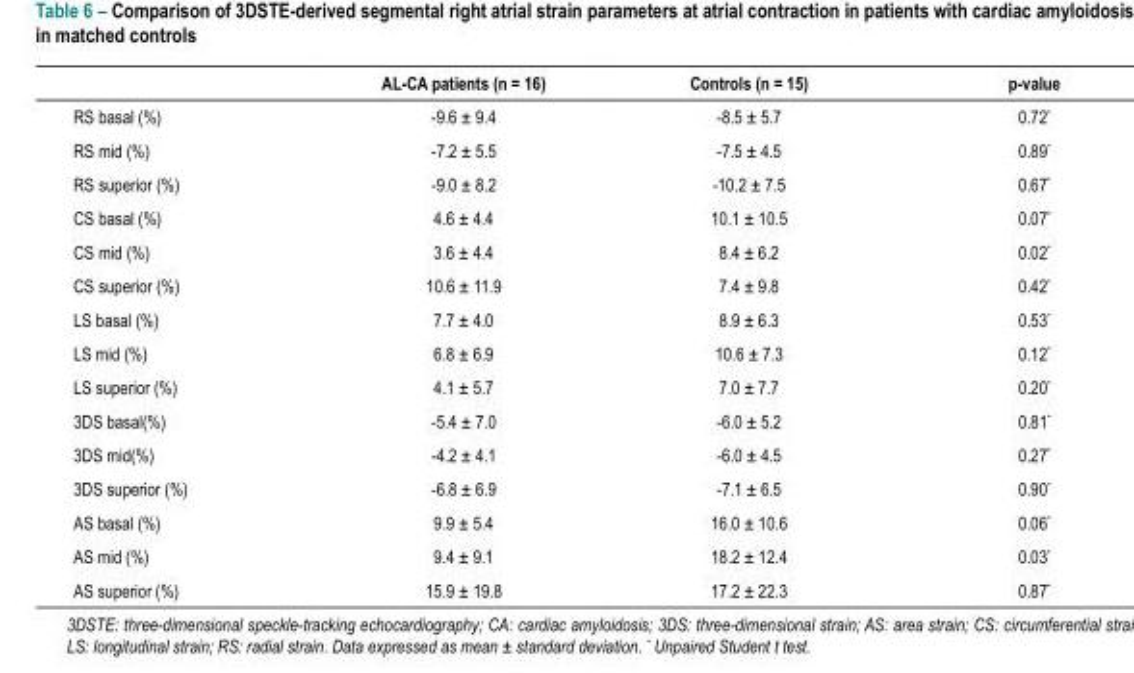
<table><thead><tr><td></td><td>AL-CA patients (n = 16)</td><td>Controls (n = 15)</td><td>p-value</td></tr></thead><tbody><tr><td>RS basal (%)</td><td>-9.6 ± 9.4</td><td>-8.5 ± 5.7</td><td>0.72*</td></tr><tr><td>RS mid (%)</td><td>-7.2 ± 5.5</td><td>-7.5 ± 4.5</td><td>0.89*</td></tr><tr><td>RS superior (%)</td><td>-9.0 ± 8.2</td><td>-10.2 ± 7.5</td><td>0.67*</td></tr><tr><td>CS basal (%)</td><td>4.6 ± 4.4</td><td>10.1 ± 10.5</td><td>0.07*</td></tr><tr><td>CS mid (%)</td><td>3.6 ± 4.4</td><td>8.4 ± 6.2</td><td>0.02*</td></tr><tr><td>CS superior (%)</td><td>10.6 ± 11.9</td><td>7.4 ± 9.8</td><td>0.42*</td></tr><tr><td>LS basal (%)</td><td>7.7 ± 4.0</td><td>8.9 ± 6.3</td><td>0.53*</td></tr><tr><td>LS mid (%)</td><td>6.8 ± 6.9</td><td>10.6 ± 7.3</td><td>0.12*</td></tr><tr><td>LS superior (%)</td><td>4.1 ± 5.7</td><td>7.0 ± 7.7</td><td>0.20*</td></tr><tr><td>3DS basal(%)</td><td>-5.4 ± 7.0</td><td>-6.0 ± 5.2</td><td>0.81*</td></tr><tr><td>3DS mid(%)</td><td>-4.2 ± 4.1</td><td>-6.0 ± 4.5</td><td>0.27*</td></tr><tr><td>3DS superior (%)</td><td>-6.8 ± 6.9</td><td>-7.1 ± 6.5</td><td>0.90*</td></tr><tr><td>AS basal (%)</td><td>9.9 ± 5.4</td><td>16.0 ± 10.6</td><td>0.06*</td></tr><tr><td>AS mid (%)</td><td>9.4 ± 9.1</td><td>18.2 ± 12.4</td><td>0.03*</td></tr><tr><td>AS superior (%)</td><td>15.9 ± 19.8</td><td>17.2 ± 22.3</td><td>0.87*</td></tr></tbody></table>